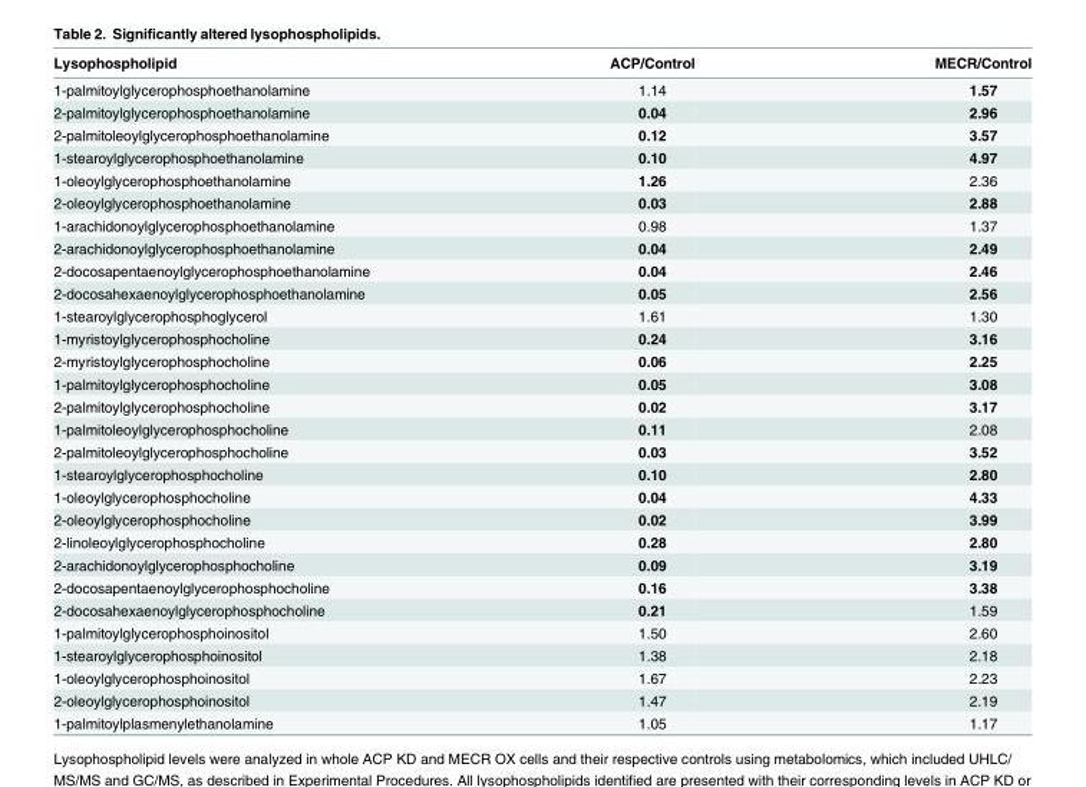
<table><thead><tr><td>Lysophospholipid</td><td>ACP/Control</td><td>MECR/Control</td></tr></thead><tbody><tr><td>1-palmitoylglycerophosphoethanolamine</td><td>1.14</td><td>1.57</td></tr><tr><td>2-palmitoylglycerophosphoethanolamine</td><td>0.04</td><td>2.96</td></tr><tr><td>2-palmitoleoylglycerophosphoethanolamine</td><td>0.12</td><td>3.57</td></tr><tr><td>1-stearoylglycerophosphoethanolamine</td><td>0.10</td><td>4.97</td></tr><tr><td>1-oleoylglycerophosphoethanolamine</td><td>1.26</td><td>2.36</td></tr><tr><td>2-oleoylglycerophosphoethanolamine</td><td>0.03</td><td>2.88</td></tr><tr><td>1-arachidonoylglycerophosphoethanolamine</td><td>0.98</td><td>1.37</td></tr><tr><td>2-arachidonoylglycerophosphoethanolamine</td><td>0.04</td><td>2.49</td></tr><tr><td>2-docosapentaenoylglycerophosphoethanolamine</td><td>0.04</td><td>2.46</td></tr><tr><td>2-docosahexaenoylglycerophosphoethanolamine</td><td>0.05</td><td>2.56</td></tr><tr><td>1-stearoylglycerophosphoglycerol</td><td>1.61</td><td>1.30</td></tr><tr><td>1-myristoylglycerophosphocholine</td><td>0.24</td><td>3.16</td></tr><tr><td>2-myristoylglycerophosphocholine</td><td>0.06</td><td>2.25</td></tr><tr><td>1-palmitoylglycerophosphocholine</td><td>0.05</td><td>3.08</td></tr><tr><td>2-palmitoylglycerophosphocholine</td><td>0.02</td><td>3.17</td></tr><tr><td>1-palmitoleoylglycerophosphocholine</td><td>0.11</td><td>2.08</td></tr><tr><td>2-palmitoleoylglycerophosphocholine</td><td>0.03</td><td>3.52</td></tr><tr><td>1-stearoylglycerophosphocholine</td><td>0.10</td><td>2.80</td></tr><tr><td>1-oleoylglycerophosphocholine</td><td>0.04</td><td>4.33</td></tr><tr><td>2-oleoylglycerophosphocholine</td><td>0.02</td><td>3.99</td></tr><tr><td>2-linoleoylglycerophosphocholine</td><td>0.28</td><td>2.80</td></tr><tr><td>2-arachidonoylglycerophosphocholine</td><td>0.09</td><td>3.19</td></tr><tr><td>2-docosapentaenoylglycerophosphocholine</td><td>0.16</td><td>3.38</td></tr><tr><td>2-docosahexaenoylglycerophosphocholine</td><td>0.21</td><td>1.59</td></tr><tr><td>1-palmitoylglycerophosphoinositol</td><td>1.50</td><td>2.60</td></tr><tr><td>1-stearoylglycerophosphoinositol</td><td>1.38</td><td>2.18</td></tr><tr><td>1-oleoylglycerophosphoinositol</td><td>1.67</td><td>2.23</td></tr><tr><td>2-oleoylglycerophosphoinositol</td><td>1.47</td><td>2.19</td></tr><tr><td>1-palmitoylplasmenylethanolamine</td><td>1.05</td><td>1.17</td></tr></tbody></table>